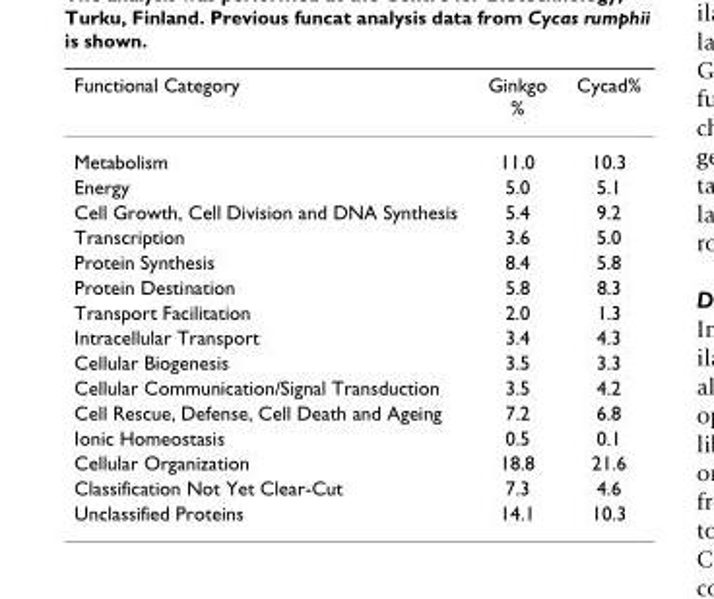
<table><thead><tr><td>Functional Category</td><td>Ginkgo %</td><td>Cycad%</td></tr></thead><tbody><tr><td>Metabolism</td><td>11.0</td><td>10.3</td></tr><tr><td>Energy</td><td>5.0</td><td>5.1</td></tr><tr><td>Cell Growth, Cell Division and DNA Synthesis</td><td>5.4</td><td>9.2</td></tr><tr><td>Transcription</td><td>3.6</td><td>5.0</td></tr><tr><td>Protein Synthesis</td><td>8.4</td><td>5.8</td></tr><tr><td>Protein Destination</td><td>5.8</td><td>8.3</td></tr><tr><td>Transport Facilitation</td><td>2.0</td><td>1.3</td></tr><tr><td>Intracellular Transport</td><td>3.4</td><td>4.3</td></tr><tr><td>Cellular Biogenesis</td><td>3.5</td><td>3.3</td></tr><tr><td>Cellular Communication/Signal Transduction</td><td>3.5</td><td>4.2</td></tr><tr><td>Cell Rescue, Defense, Cell Death and Ageing</td><td>7.2</td><td>6.8</td></tr><tr><td>Ionic Homeostasis</td><td>0.5</td><td>0.1</td></tr><tr><td>Cellular Organization</td><td>18.8</td><td>21.6</td></tr><tr><td>Classification Not Yet Clear-Cut</td><td>7.3</td><td>4.6</td></tr><tr><td>Unclassified Proteins</td><td>14.1</td><td>10.3</td></tr></tbody></table>